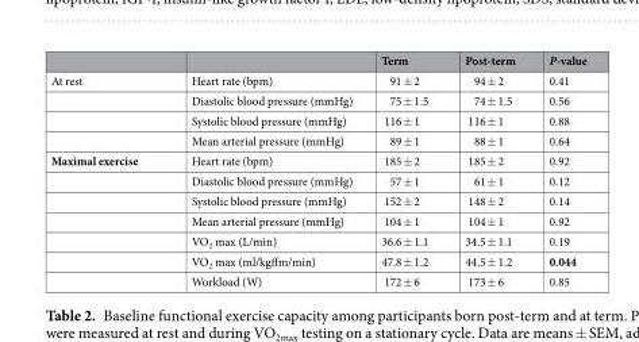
<table><thead><tr><td></td><td></td><td>Term</td><td>Post-term</td><td>P-value</td></tr></thead><tbody><tr><td rowspan="4">At rest</td><td>Heart rate (bpm)</td><td>91 ± 2</td><td>94 ± 2</td><td>0.41</td></tr><tr><td>Diastolic blood pressure (mmHg)</td><td>75 ± 1.5</td><td>74 ± 1.5</td><td>0.56</td></tr><tr><td>Systolic blood pressure (mmHg)</td><td>116 ± 1</td><td>116 ± 1</td><td>0.88</td></tr><tr><td>Mean arterial pressure (mmHg)</td><td>89 ± 1</td><td>88 ± 1</td><td>0.64</td></tr><tr><td rowspan="7">Maximal exercise</td><td>Heart rate (bpm)</td><td>185 ± 2</td><td>185 ± 2</td><td>0.92</td></tr><tr><td>Diastolic blood pressure (mmHg)</td><td>57 ± 1</td><td>61 ± 1</td><td>0.12</td></tr><tr><td>Systolic blood pressure (mmHg)</td><td>152 ± 2</td><td>148 ± 2</td><td>0.14</td></tr><tr><td>Mean arterial pressure (mmHg)</td><td>104 ± 1</td><td>104 ± 1</td><td>0.92</td></tr><tr><td>VO<sub>2</sub> max (L/min)</td><td>36.6 ± 1.1</td><td>34.5 ± 1.1</td><td>0.19</td></tr><tr><td>VO<sub>2</sub> max (ml/kgffm/min)</td><td>47.8 ± 1.2</td><td>44.5 ± 1.2</td><td>0.044</td></tr><tr><td>Workload (W)</td><td>172 ± 6</td><td>173 ± 6</td><td>0.85</td></tr></tbody></table>